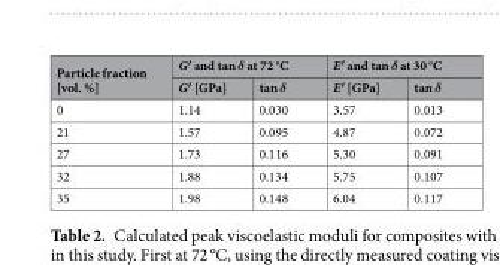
<table><thead><tr><td rowspan="2">Particle fraction [vol. %]</td><td colspan="2">G′ and tan δ at 72 °C</td><td colspan="2">E′ and tan δ at 30 °C</td></tr><tr><td>G′ [GPa]</td><td>tan δ</td><td>E′ [GPa]</td><td>tan δ</td></tr></thead><tbody><tr><td>0</td><td>1.14</td><td>0.030</td><td>3.57</td><td>0.013</td></tr><tr><td>21</td><td>1.57</td><td>0.095</td><td>4.87</td><td>0.072</td></tr><tr><td>27</td><td>1.73</td><td>0.116</td><td>5.30</td><td>0.091</td></tr><tr><td>32</td><td>1.88</td><td>0.134</td><td>5.75</td><td>0.107</td></tr><tr><td>35</td><td>1.98</td><td>0.148</td><td>6.04</td><td>0.117</td></tr></tbody></table>